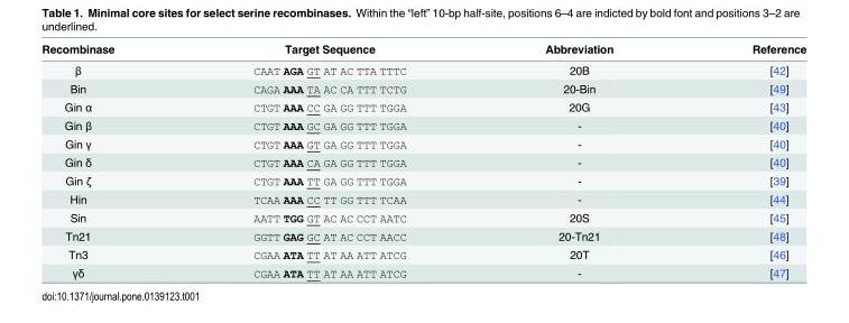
<table><thead><tr><td>Recombinase</td><td>Target Sequence</td><td>Abbreviation</td><td>Reference</td></tr></thead><tbody><tr><td>β</td><td>CAAT AGA GT AT AC TTA TTTC</td><td>20B</td><td>[42]</td></tr><tr><td>Bin</td><td>CAGA AAA TA AC CA TTT TCTG</td><td>20-Bin</td><td>[49]</td></tr><tr><td>Gin α</td><td>CTGT AAA CC GA GG TTT TGGA</td><td>20G</td><td>[43]</td></tr><tr><td>Gin β</td><td>CTGT AAA GC GA GG TTT TGGA</td><td>-</td><td>[40]</td></tr><tr><td>Gin γ</td><td>CTGT AAA GT GA GG TTT TGGA</td><td>-</td><td>[40]</td></tr><tr><td>Gin δ</td><td>CTGT AAA CA GA GG TTT TGGA</td><td>-</td><td>[40]</td></tr><tr><td>Gin ζ</td><td>CTGT AAA TT GA GG TTT TGGA</td><td>-</td><td>[39]</td></tr><tr><td>Hin</td><td>TCAA AAA CC TT GG TTT TCAA</td><td>-</td><td>[44]</td></tr><tr><td>Sin</td><td>AATT TGG GT AC AC CCT AATC</td><td>20S</td><td>[45]</td></tr><tr><td>Tn21</td><td>GGTT GAG GC AT AC CCT AACC</td><td>20-Tn21</td><td>[48]</td></tr><tr><td>Tn3</td><td>CGAA ATA TT AT AA ATT ATCG</td><td>20T</td><td>[46]</td></tr><tr><td>γδ</td><td>CGAA ATA TT AT AA ATT ATCG</td><td>-</td><td>[47]</td></tr></tbody></table>